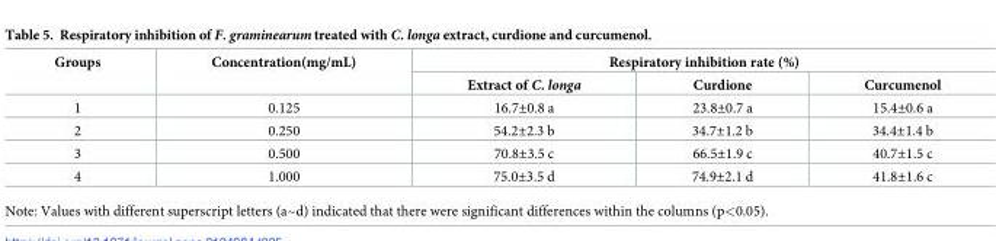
<table><thead><tr><td rowspan="2">Groups</td><td rowspan="2">Concentration(mg/mL)</td><td colspan="3">Respiratory inhibition rate (%)</td></tr><tr><td>Extract of C. longa</td><td>Curdione</td><td>Curcumenol</td></tr></thead><tbody><tr><td>1</td><td>0.125</td><td>16.7±0.8 a</td><td>23.8±0.7 a</td><td>15.4±0.6 a</td></tr><tr><td>2</td><td>0.250</td><td>54.2±2.3 b</td><td>34.7±1.2 b</td><td>34.4±1.4 b</td></tr><tr><td>3</td><td>0.500</td><td>70.8±3.5 c</td><td>66.5±1.9 c</td><td>40.7±1.5 c</td></tr><tr><td>4</td><td>1.000</td><td>75.0±3.5 d</td><td>74.9±2.1 d</td><td>41.8±1.6 c</td></tr></tbody></table>